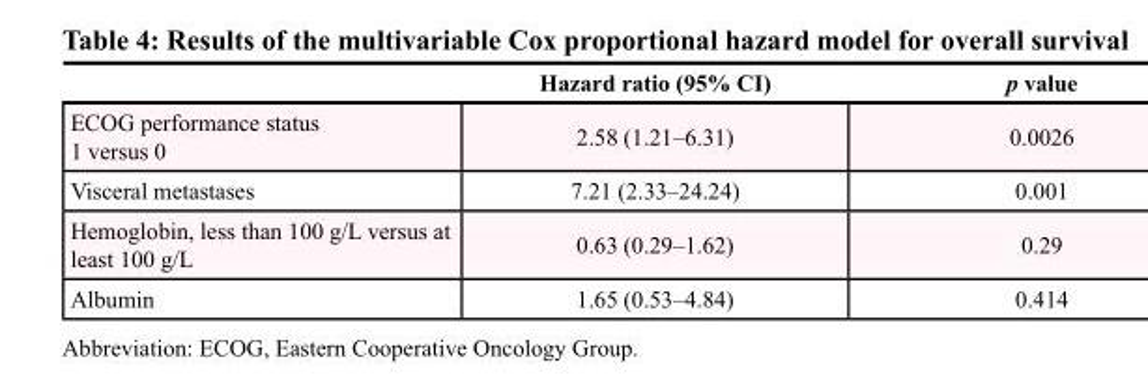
<table><thead><tr><td></td><td>Hazard ratio (95% CI)</td><td>p value</td></tr></thead><tbody><tr><td>ECOG performance status 1 versus 0</td><td>2.58 (1.21–6.31)</td><td>0.0026</td></tr><tr><td>Visceral metastases</td><td>7.21 (2.33–24.24)</td><td>0.001</td></tr><tr><td>Hemoglobin, less than 100 g/L versus at least 100 g/L</td><td>0.63 (0.29–1.62)</td><td>0.29</td></tr><tr><td>Albumin</td><td>1.65 (0.53–4.84)</td><td>0.414</td></tr></tbody></table>